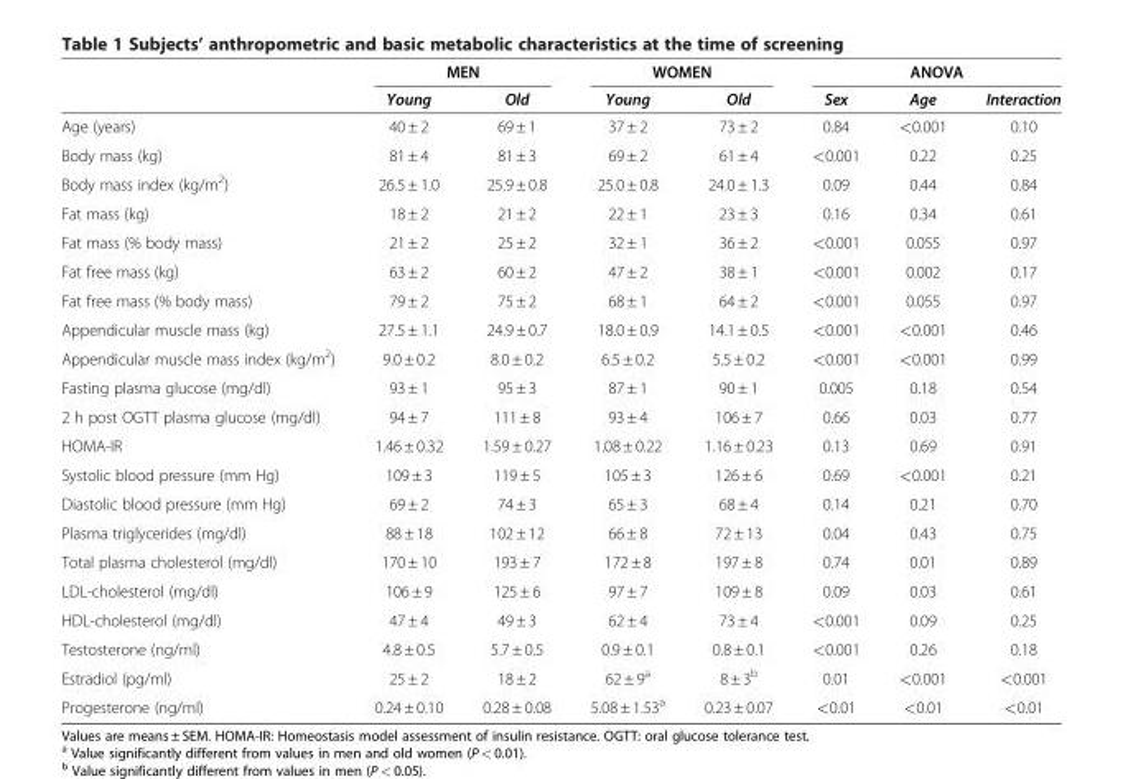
<table><thead><tr><td rowspan="2"></td><td colspan="2">MEN</td><td colspan="2">WOMEN</td><td colspan="3">ANOVA</td></tr><tr><td>Young</td><td>Old</td><td>Young</td><td>Old</td><td>Sex</td><td>Age</td><td>Interaction</td></tr></thead><tbody><tr><td>Age (years)</td><td>40 ± 2</td><td>69 ± 1</td><td>37 ± 2</td><td>73 ± 2</td><td>0.84</td><td>&lt;0.001</td><td>0.10</td></tr><tr><td>Body mass (kg)</td><td>81 ± 4</td><td>81 ± 3</td><td>69 ± 2</td><td>61 ± 4</td><td>&lt;0.001</td><td>0.22</td><td>0.25</td></tr><tr><td>Body mass index (kg/m<sup>2</sup>)</td><td>26.5 ± 1.0</td><td>25.9 ± 0.8</td><td>25.0 ± 0.8</td><td>24.0 ± 1.3</td><td>0.09</td><td>0.44</td><td>0.84</td></tr><tr><td>Fat mass (kg)</td><td>18 ± 2</td><td>21 ± 2</td><td>22 ± 1</td><td>23 ± 3</td><td>0.16</td><td>0.34</td><td>0.61</td></tr><tr><td>Fat mass (% body mass)</td><td>21 ± 2</td><td>25 ± 2</td><td>32 ± 1</td><td>36 ± 2</td><td>&lt;0.001</td><td>0.055</td><td>0.97</td></tr><tr><td>Fat free mass (kg)</td><td>63 ± 2</td><td>60 ± 2</td><td>47 ± 2</td><td>38 ± 1</td><td>&lt;0.001</td><td>0.002</td><td>0.17</td></tr><tr><td>Fat free mass (% body mass)</td><td>79 ± 2</td><td>75 ± 2</td><td>68 ± 1</td><td>64 ± 2</td><td>&lt;0.001</td><td>0.055</td><td>0.97</td></tr><tr><td>Appendicular muscle mass (kg)</td><td>27.5 ± 1.1</td><td>24.9 ± 0.7</td><td>18.0 ± 0.9</td><td>14.1 ± 0.5</td><td>&lt;0.001</td><td>&lt;0.001</td><td>0.46</td></tr><tr><td>Appendicular muscle mass index (kg/m<sup>2</sup>)</td><td>9.0 ± 0.2</td><td>8.0 ± 0.2</td><td>6.5 ± 0.2</td><td>5.5 ± 0.2</td><td>&lt;0.001</td><td>&lt;0.001</td><td>0.99</td></tr><tr><td>Fasting plasma glucose (mg/dl)</td><td>93 ± 1</td><td>95 ± 3</td><td>87 ± 1</td><td>90 ± 1</td><td>0.005</td><td>0.18</td><td>0.54</td></tr><tr><td>2 h post OGTT plasma glucose (mg/dl)</td><td>94 ± 7</td><td>111 ± 8</td><td>93 ± 4</td><td>106 ± 7</td><td>0.66</td><td>0.03</td><td>0.77</td></tr><tr><td>HOMA-IR</td><td>1.46 ± 0.32</td><td>1.59 ± 0.27</td><td>1.08 ± 0.22</td><td>1.16 ± 0.23</td><td>0.13</td><td>0.69</td><td>0.91</td></tr><tr><td>Systolic blood pressure (mm Hg)</td><td>109 ± 3</td><td>119 ± 5</td><td>105 ± 3</td><td>126 ± 6</td><td>0.69</td><td>&lt;0.001</td><td>0.21</td></tr><tr><td>Diastolic blood pressure (mm Hg)</td><td>69 ± 2</td><td>74 ± 3</td><td>65 ± 3</td><td>68 ± 4</td><td>0.14</td><td>0.21</td><td>0.70</td></tr><tr><td>Plasma triglycerides (mg/dl)</td><td>88 ± 18</td><td>102 ± 12</td><td>66 ± 8</td><td>72 ± 13</td><td>0.04</td><td>0.43</td><td>0.75</td></tr><tr><td>Total plasma cholesterol (mg/dl)</td><td>170 ± 10</td><td>193 ± 7</td><td>172 ± 8</td><td>197 ± 8</td><td>0.74</td><td>0.01</td><td>0.89</td></tr><tr><td>LDL-cholesterol (mg/dl)</td><td>106 ± 9</td><td>125 ± 6</td><td>97 ± 7</td><td>109 ± 8</td><td>0.09</td><td>0.03</td><td>0.61</td></tr><tr><td>HDL-cholesterol (mg/dl)</td><td>47 ± 4</td><td>49 ± 3</td><td>62 ± 4</td><td>73 ± 4</td><td>&lt;0.001</td><td>0.09</td><td>0.25</td></tr><tr><td>Testosterone (ng/ml)</td><td>4.8 ± 0.5</td><td>5.7 ± 0.5</td><td>0.9 ± 0.1</td><td>0.8 ± 0.1</td><td>&lt;0.001</td><td>0.26</td><td>0.18</td></tr><tr><td>Estradiol (pg/ml)</td><td>25 ± 2</td><td>18 ± 2</td><td>62 ± 9<sup>a</sup></td><td>8 ± 3<sup>b</sup></td><td>0.01</td><td>&lt;0.001</td><td>&lt;0.001</td></tr><tr><td>Progesterone (ng/ml)</td><td>0.24 ± 0.10</td><td>0.28 ± 0.08</td><td>5.08 ± 1.53<sup>a</sup></td><td>0.23 ± 0.07</td><td>&lt;0.01</td><td>&lt;0.01</td><td>&lt;0.01</td></tr></tbody></table>